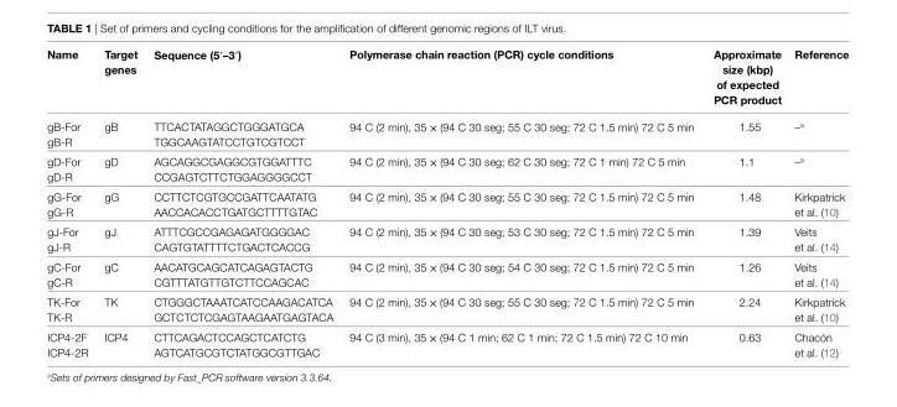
<table><thead><tr><td>name</td><td>Target genes</td><td>sequence (5′–3′)</td><td>Polymerase chain reaction (Pcr) cycle conditions</td><td>approximate size (kbp) of expected Pcr product</td><td>reference</td></tr></thead><tbody><tr><td>gB-For</td><td rowspan="2">gB</td><td>TTCACTATAGGCTGGGATGCA</td><td rowspan="2">94 C (2 min), 35 × (94 C 30 seg; 55 C 30 seg; 72 C 1.5 min) 72 C 5 min</td><td rowspan="2">1.55</td><td rowspan="2">–<sup>a</sup></td></tr><tr><td>gB-R</td><td>TGGCAAGTATCCTGTCGTCCT</td></tr><tr><td>gD-For</td><td rowspan="2">gD</td><td>AGCAGGCGAGGCGTGGATTTC</td><td rowspan="2">94 C (2 min), 35 × (94 C 30 seg; 62 C 30 seg; 72 C 1 min) 72 C 5 min</td><td rowspan="2">1.1</td><td rowspan="2">–<sup>a</sup></td></tr><tr><td>gD-R</td><td>CCGAGTCTTCTGGAGGGGCCT</td></tr><tr><td>gG-For</td><td rowspan="2">gG</td><td>CCTTCTCGTGCCGATTCAATATG</td><td rowspan="2">94 C (2 min), 35 × (94 C 30 seg; 55 C 30 seg; 72 C 1.5 min) 72 C 5 min</td><td rowspan="2">1.48</td><td rowspan="2">Kirkpatrick et al. (10)</td></tr><tr><td>gG-R</td><td>AACCACACCTGATGCTTTTGTAC</td></tr><tr><td>gJ-For</td><td rowspan="2">gJ</td><td>ATTTCGCCGAGAGATGGGGAC</td><td rowspan="2">94 C (2 min), 35 × (94 C 30 seg; 53 C 30 seg; 72 C 1.5 min) 72 C 5 min</td><td rowspan="2">1.39</td><td rowspan="2">Veits et al. (14)</td></tr><tr><td>gJ-R</td><td>CAGTGTATTTTCTGACTCACCG</td></tr><tr><td>gC-For</td><td rowspan="2">gC</td><td>AACATGCAGCATCAGAGTACTG</td><td rowspan="2">94 C (2 min), 35 × (94 C 30 seg; 54 C 30 seg; 72 C 1.5 min) 72 C 5 min</td><td rowspan="2">1.26</td><td rowspan="2">Veits et al. (14)</td></tr><tr><td>gC-R</td><td>CGTTTATGTTGTCTTCCAGCAC</td></tr><tr><td>TK-For</td><td rowspan="2">TK</td><td>CTGGGCTAAATCATCCAAGACATCA</td><td rowspan="2">94 C (2 min), 35 × (94 C 30 seg; 55 C 30 seg; 72 C 1.5 min) 72 C 5 min</td><td rowspan="2">2.24</td><td rowspan="2">Kirkpatrick et al. (10)</td></tr><tr><td>TK-R</td><td>GCTCTCTCGAGTAAGAATGAGTACA</td></tr><tr><td>ICP4-2F</td><td rowspan="2">ICP4</td><td>CTTCAGACTCCAGCTCATCTG</td><td rowspan="2">94 C (3 min), 35 × (94 C 1 min; 62 C 1 min; 72 C 1.5 min) 72 C 10 min</td><td rowspan="2">0.63</td><td rowspan="2">Chacón et al. (12)</td></tr><tr><td>ICP4-2R</td><td>AGTCATGCGTCTATGGCGTTGAC</td></tr></tbody></table>